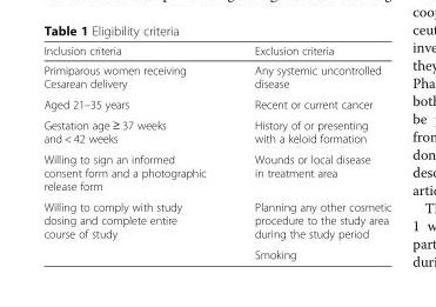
<table><thead><tr><td>Inclusion criteria</td><td>Exclusion criteria</td></tr></thead><tbody><tr><td>Primiparous women receiving Cesarean delivery</td><td>Any systemic uncontrolled disease</td></tr><tr><td>Aged 21–35 years</td><td>Recent or current cancer</td></tr><tr><td>Gestation age ≥ 37 weeks and &lt; 42 weeks</td><td>History of or presenting with a keloid formation</td></tr><tr><td>Willing to sign an informed consent form and a photographic release form</td><td>Wounds or local disease in treatment area</td></tr><tr><td rowspan="2">Willing to comply with study dosing and complete entire course of study</td><td>Planning any other cosmetic procedure to the study area during the study period</td></tr><tr><td>Smoking</td></tr></tbody></table>